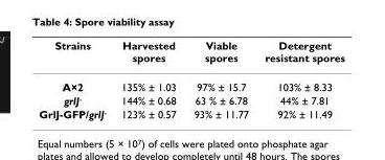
<table><thead><tr><td>Strains</td><td>Harvested spores</td><td>Viable spores</td><td>Detergent resistant spores</td></tr></thead><tbody><tr><td>A×2</td><td>135% ± 1.03</td><td>97% ± 15.7</td><td>103% ± 8.33</td></tr><tr><td>grlJ<sup>-</sup></td><td>144% ± 0.68</td><td>63 % ± 6.78</td><td>44% ± 7.81</td></tr><tr><td>GrlJ-GFP/grlJ<sup>-</sup></td><td>123% ± 0.57</td><td>93% ± 11.77</td><td>92% ± 11.49</td></tr></tbody></table>